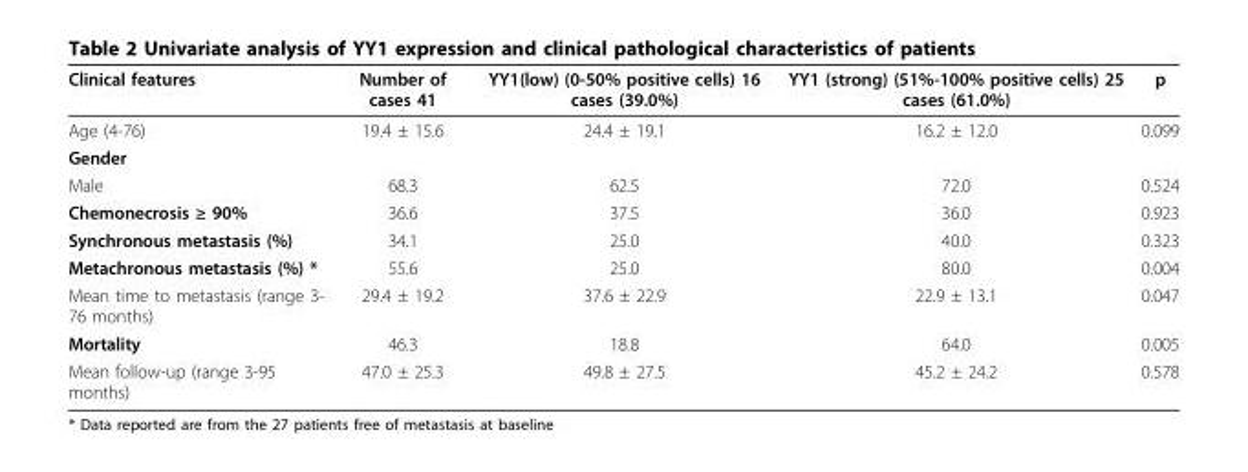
<table><thead><tr><td>Clinical features</td><td>Number of cases 41</td><td>YY1(low) (0-50% positive cells) 16 cases (39.0%)</td><td>YY1 (strong) (51%-100% positive cells) 25 cases (61.0%)</td><td>p</td></tr></thead><tbody><tr><td>Age (4-76)</td><td>19.4 ± 15.6</td><td>24.4 ± 19.1</td><td>16.2 ± 12.0</td><td>0.099</td></tr><tr><td colspan="5">Gender</td></tr><tr><td>Male</td><td>68.3</td><td>62.5</td><td>72.0</td><td>0.524</td></tr><tr><td>Chemonecrosis ≥ 90%</td><td>36.6</td><td>37.5</td><td>36.0</td><td>0.923</td></tr><tr><td>Synchronous metastasis (%)</td><td>34.1</td><td>25.0</td><td>40.0</td><td>0.323</td></tr><tr><td>Metachronous metastasis (%) *</td><td>55.6</td><td>25.0</td><td>80.0</td><td>0.004</td></tr><tr><td>Mean time to metastasis (range 3- 76 months)</td><td>29.4 ± 19.2</td><td>37.6 ± 22.9</td><td>22.9 ± 13.1</td><td>0.047</td></tr><tr><td>Mortality</td><td>46.3</td><td>18.8</td><td>64.0</td><td>0.005</td></tr><tr><td>Mean follow-up (range 3-95 months)</td><td>47.0 ± 25.3</td><td>49.8 ± 27.5</td><td>45.2 ± 24.2</td><td>0.578</td></tr></tbody></table>